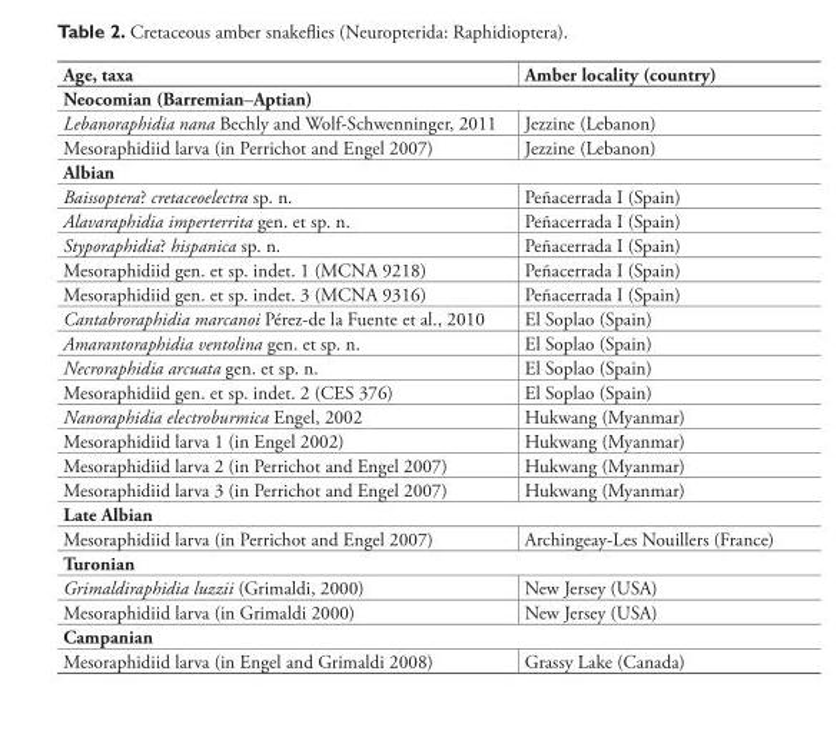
<table><thead><tr><td>Age, taxa</td><td>Amber locality (country)</td></tr></thead><tbody><tr><td colspan="2">Neocomian (Barremian–Aptian)</td></tr><tr><td>Lebanoraphidia nana Bechly and Wolf-Schwenninger, 2011</td><td>Jezzine (Lebanon)</td></tr><tr><td>Mesoraphidiid larva (in Perrichot and Engel 2007)</td><td>Jezzine (Lebanon)</td></tr><tr><td colspan="2">Albian</td></tr><tr><td>Baissoptera? cretaceoelectra sp. n.</td><td>Peñacerrada I (Spain)</td></tr><tr><td>Alavaraphidia imperterrita gen. et sp. n.</td><td>Peñacerrada I (Spain)</td></tr><tr><td>Styporaphidia? hispanica sp. n.</td><td>Peñacerrada I (Spain)</td></tr><tr><td>Mesoraphidiid gen. et sp. indet. 1 (MCNA 9218)</td><td>Peñacerrada I (Spain)</td></tr><tr><td>Mesoraphidiid gen. et sp. indet. 3 (MCNA 9316)</td><td>Peñacerrada I (Spain)</td></tr><tr><td>Cantabroraphidia marcanoi Pérez-de la Fuente et al., 2010</td><td>El Soplao (Spain)</td></tr><tr><td>Amarantoraphidia ventolina gen. et sp. n.</td><td>El Soplao (Spain)</td></tr><tr><td>Necroraphidia arcuata gen. et sp. n.</td><td>El Soplao (Spain)</td></tr><tr><td>Mesoraphidiid gen. et sp. indet. 2 (CES 376)</td><td>El Soplao (Spain)</td></tr><tr><td>Nanoraphidia electroburmica Engel, 2002</td><td>Hukwang (Myanmar)</td></tr><tr><td>Mesoraphidiid larva 1 (in Engel 2002)</td><td>Hukwang (Myanmar)</td></tr><tr><td>Mesoraphidiid larva 2 (in Perrichot and Engel 2007)</td><td>Hukwang (Myanmar)</td></tr><tr><td>Mesoraphidiid larva 3 (in Perrichot and Engel 2007)</td><td>Hukwang (Myanmar)</td></tr><tr><td colspan="2">Late Albian</td></tr><tr><td>Mesoraphidiid larva (in Perrichot and Engel 2007)</td><td>Archingeay-Les Nouillers (France)</td></tr><tr><td colspan="2">Turonian</td></tr><tr><td>Grimaldiraphidia luzzii (Grimaldi, 2000)</td><td>New Jersey (USA)</td></tr><tr><td>Mesoraphidiid larva (in Grimaldi 2000)</td><td>New Jersey (USA)</td></tr><tr><td colspan="2">Campanian</td></tr><tr><td>Mesoraphidiid larva (in Engel and Grimaldi 2008)</td><td>Grassy Lake (Canada)</td></tr></tbody></table>